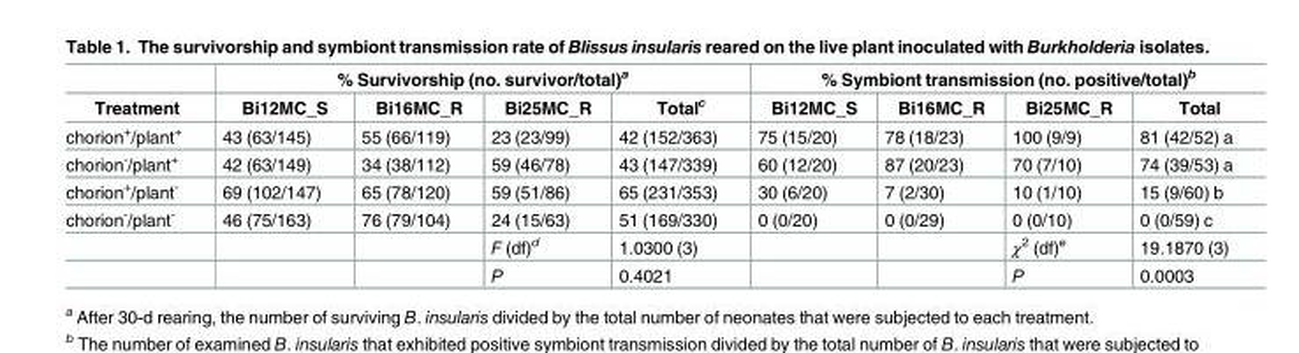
<table><thead><tr><td rowspan="2">Treatment</td><td colspan="4">% Survivorship (no. survivor/total)<sup>a</sup></td><td colspan="4">% Symbiont transmission (no. positive/total)<sup>b</sup></td></tr><tr><td>Bi12MC_S</td><td>Bi16MC_R</td><td>Bi25MC_R</td><td>Total<sup>c</sup></td><td>Bi12MC_S</td><td>Bi16MC_R</td><td>Bi25MC_R</td><td>Total</td></tr></thead><tbody><tr><td>chorion<sup>+</sup>/plant<sup>+</sup></td><td>43 (63/145)</td><td>55 (66/119)</td><td>23 (23/99)</td><td>42 (152/363)</td><td>75 (15/20)</td><td>78 (18/23)</td><td>100 (9/9)</td><td>81 (42/52) a</td></tr><tr><td>chorion<sup>-</sup>/plant<sup>+</sup></td><td>42 (63/149)</td><td>34 (38/112)</td><td>59 (46/78)</td><td>43 (147/339)</td><td>60 (12/20)</td><td>87 (20/23)</td><td>70 (7/10)</td><td>74 (39/53) a</td></tr><tr><td>chorion<sup>+</sup>/plant<sup>-</sup></td><td>69 (102/147)</td><td>65 (78/120)</td><td>59 (51/86)</td><td>65 (231/353)</td><td>30 (6/20)</td><td>7 (2/30)</td><td>10 (1/10)</td><td>15 (9/60) b</td></tr><tr><td rowspan="3">chorion<sup>-</sup>/plant<sup>-</sup></td><td>46 (75/163)</td><td>76 (79/104)</td><td>24 (15/63)</td><td>51 (169/330)</td><td>0 (0/20)</td><td>0 (0/29)</td><td>0 (0/10)</td><td>0 (0/59) c</td></tr><tr><td></td><td></td><td>F (df)<sup>d</sup></td><td>1.0300 (3)</td><td></td><td></td><td>χ<sup>2</sup> (df)<sup>e</sup></td><td>19.1870 (3)</td></tr><tr><td></td><td></td><td>P</td><td>0.4021</td><td></td><td></td><td>P</td><td>0.0003</td></tr></tbody></table>